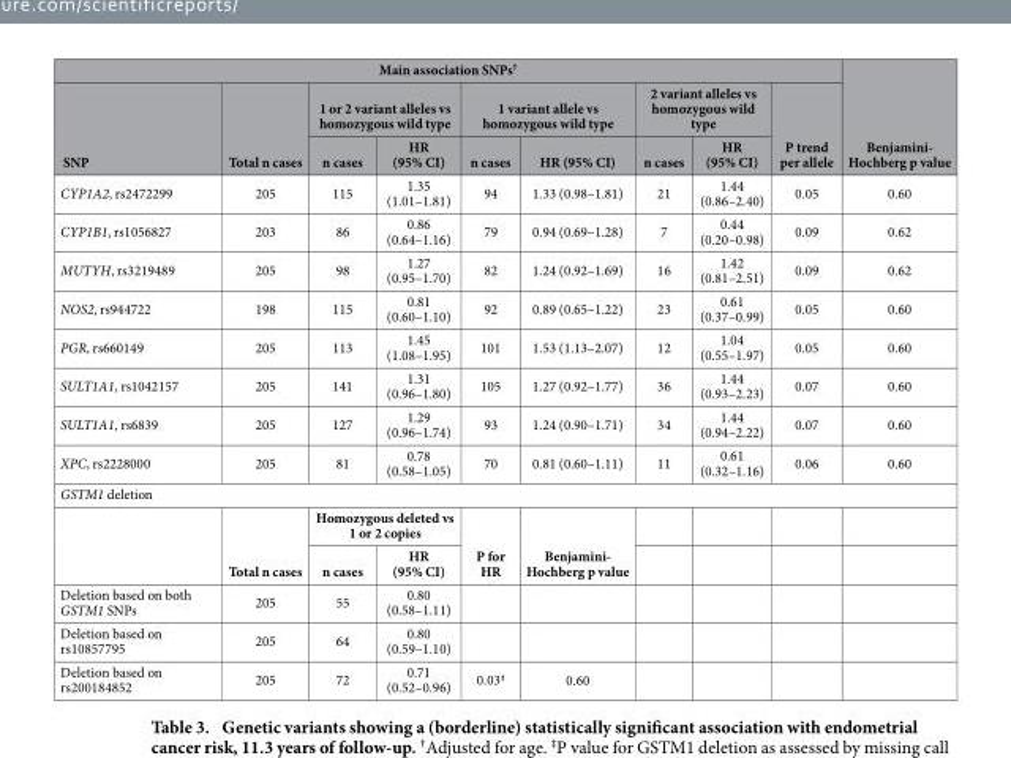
<table><thead><tr><td colspan="9">Main association SNPs†</td><td rowspan="3">Benjamini- Hochberg p value</td></tr><tr><td rowspan="2">SNP</td><td rowspan="2">Total n cases</td><td colspan="2">1 or 2 variant alleles vs homozygous wild type</td><td colspan="2">1 variant allele vs homozygous wild type</td><td colspan="2">2 variant alleles vs homozygous wild type</td><td rowspan="2">P trend per allele</td></tr><tr><td>n cases</td><td>HR (95% CI)</td><td>n cases</td><td>HR (95% CI)</td><td>n cases</td><td>HR (95% CI)</td></tr></thead><tbody><tr><td>CYP1A2, rs2472299</td><td>205</td><td>115</td><td>1.35 (1.01–1.81)</td><td>94</td><td>1.33 (0.98–1.81)</td><td>21</td><td>1.44 (0.86–2.40)</td><td>0.05</td><td>0.60</td></tr><tr><td>CYP1B1, rs1056827</td><td>203</td><td>86</td><td>0.86 (0.64–1.16)</td><td>79</td><td>0.94 (0.69–1.28)</td><td>7</td><td>0.44 (0.20–0.98)</td><td>0.09</td><td>0.62</td></tr><tr><td>MUTYH, rs3219489</td><td>205</td><td>98</td><td>1.27 (0.95–1.70)</td><td>82</td><td>1.24 (0.92–1.69)</td><td>16</td><td>1.42 (0.81–2.51)</td><td>0.09</td><td>0.62</td></tr><tr><td>NOS2, rs944722</td><td>198</td><td>115</td><td>0.81 (0.60–1.10)</td><td>92</td><td>0.89 (0.65–1.22)</td><td>23</td><td>0.61 (0.37–0.99)</td><td>0.05</td><td>0.60</td></tr><tr><td>PGR, rs660149</td><td>205</td><td>113</td><td>1.45 (1.08–1.95)</td><td>101</td><td>1.53 (1.13–2.07)</td><td>12</td><td>1.04 (0.55–1.97)</td><td>0.05</td><td>0.60</td></tr><tr><td>SULT1A1, rs1042157</td><td>205</td><td>141</td><td>1.31 (0.96–1.80)</td><td>105</td><td>1.27 (0.92–1.77)</td><td>36</td><td>1.44 (0.93–2.23)</td><td>0.07</td><td>0.60</td></tr><tr><td>SULT1A1, rs6839</td><td>205</td><td>127</td><td>1.29 (0.96–1.74)</td><td>93</td><td>1.24 (0.90–1.71)</td><td>34</td><td>1.44 (0.94–2.22)</td><td>0.07</td><td>0.60</td></tr><tr><td>XPC, rs2228000</td><td>205</td><td>81</td><td>0.78 (0.58–1.05)</td><td>70</td><td>0.81 (0.60–1.11)</td><td>11</td><td>0.61 (0.32–1.16)</td><td>0.06</td><td>0.60</td></tr><tr><td colspan="10">GSTM1 deletion</td></tr><tr><td rowspan="2"></td><td rowspan="2">Total n cases</td><td colspan="2">Homozygous deleted vs 1 or 2 copies</td><td rowspan="2">P for HR</td><td rowspan="2">Benjamini- Hochberg p value</td><td></td><td></td><td></td><td></td></tr><tr><td>n cases</td><td>HR (95% CI)</td><td></td><td></td><td></td><td></td></tr><tr><td>Deletion based on both GSTM1 SNPs</td><td>205</td><td>55</td><td>0.80 (0.58–1.11)</td><td></td><td></td><td></td><td></td><td></td><td></td></tr><tr><td>Deletion based on rs10857795</td><td>205</td><td>64</td><td>0.80 (0.59–1.10)</td><td></td><td></td><td></td><td></td><td></td><td></td></tr><tr><td>Deletion based on rs200184852</td><td>205</td><td>72</td><td>0.71 (0.52–0.96)</td><td>0.03‡</td><td>0.60</td><td></td><td></td><td></td><td></td></tr></tbody></table>